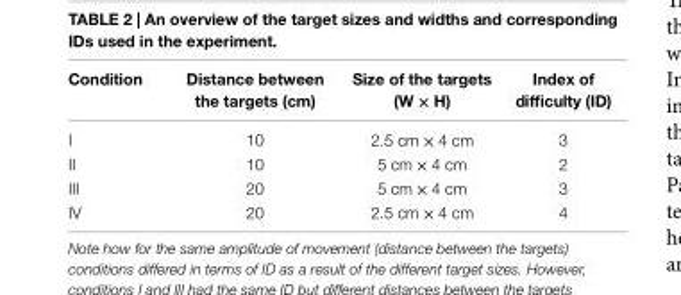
<table><thead><tr><td>condition</td><td>Distance between the targets (cm)</td><td>size of the targets (W × h)</td><td>index of difficulty (iD)</td></tr></thead><tbody><tr><td>I</td><td>10</td><td>2.5 cm × 4 cm</td><td>3</td></tr><tr><td>II</td><td>10</td><td>5 cm × 4 cm</td><td>2</td></tr><tr><td>III</td><td>20</td><td>5 cm × 4 cm</td><td>3</td></tr><tr><td>IV</td><td>20</td><td>2.5 cm × 4 cm</td><td>4</td></tr></tbody></table>